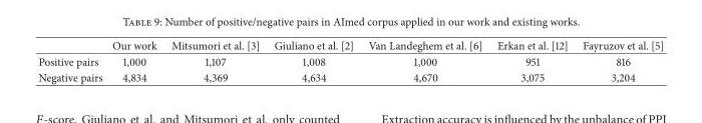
<table><thead><tr><td></td><td>Our work</td><td>Mitsumori et al. [3]</td><td>Giuliano et al. [2]</td><td>Van Landeghem et al. [6]</td><td>Erkan et al. [12]</td><td>Fayruzov et al. [5]</td></tr></thead><tbody><tr><td>Positive pairs</td><td>1,000</td><td>1,107</td><td>1,008</td><td>1,000</td><td>951</td><td>816</td></tr><tr><td>Negative pairs</td><td>4,834</td><td>4,369</td><td>4,634</td><td>4,670</td><td>3,075</td><td>3,204</td></tr></tbody></table>